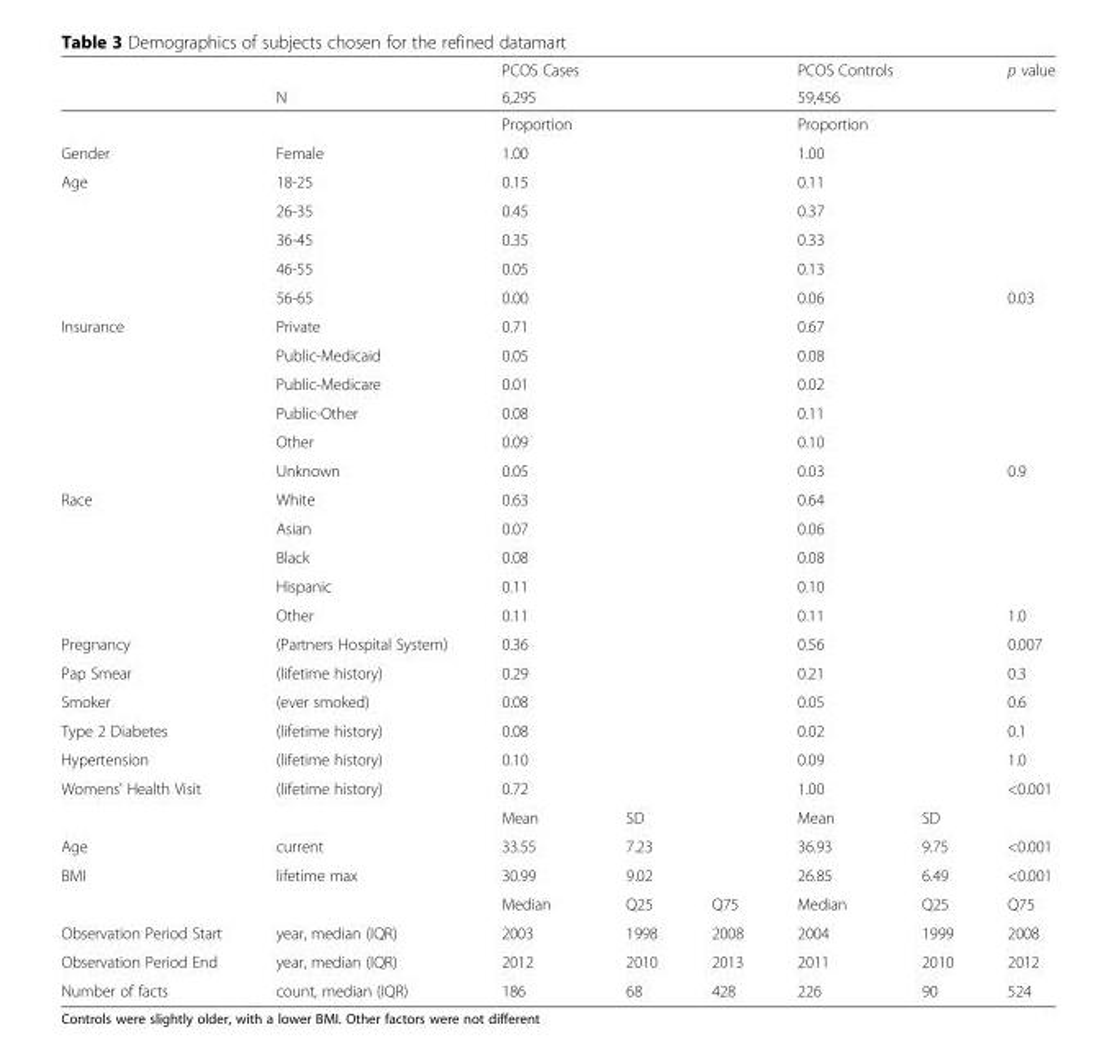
<table><thead><tr><td rowspan="3"></td><td rowspan="3">N</td><td rowspan="2" colspan="2">PCOS Cases 6,295</td><td rowspan="3"></td><td rowspan="2" colspan="2">PCOS Controls 59,456</td><td rowspan="3">p value</td></tr><tr></tr><tr><td>Proportion</td><td></td><td>Proportion</td><td></td></tr></thead><tbody><tr><td>Gender</td><td>Female</td><td>1.00</td><td></td><td></td><td>1.00</td><td></td><td></td></tr><tr><td rowspan="5">Age</td><td>18-25</td><td>0.15</td><td></td><td></td><td>0.11</td><td></td><td></td></tr><tr><td>26-35</td><td>0.45</td><td></td><td></td><td>0.37</td><td></td><td></td></tr><tr><td>36-45</td><td>0.35</td><td></td><td></td><td>0.33</td><td></td><td></td></tr><tr><td>46-55</td><td>0.05</td><td></td><td></td><td>0.13</td><td></td><td></td></tr><tr><td>56-65</td><td>0.00</td><td></td><td></td><td>0.06</td><td></td><td>0.03</td></tr><tr><td rowspan="6">Insurance</td><td>Private</td><td>0.71</td><td></td><td></td><td>0.67</td><td></td><td></td></tr><tr><td>Public-Medicaid</td><td>0.05</td><td></td><td></td><td>0.08</td><td></td><td></td></tr><tr><td>Public-Medicare</td><td>0.01</td><td></td><td></td><td>0.02</td><td></td><td></td></tr><tr><td>Public-Other</td><td>0.08</td><td></td><td></td><td>0.11</td><td></td><td></td></tr><tr><td>Other</td><td>0.09</td><td></td><td></td><td>0.10</td><td></td><td></td></tr><tr><td>Unknown</td><td>0.05</td><td></td><td></td><td>0.03</td><td></td><td>0.9</td></tr><tr><td rowspan="5">Race</td><td>White</td><td>0.63</td><td></td><td></td><td>0.64</td><td></td><td></td></tr><tr><td>Asian</td><td>0.07</td><td></td><td></td><td>0.06</td><td></td><td></td></tr><tr><td>Black</td><td>0.08</td><td></td><td></td><td>0.08</td><td></td><td></td></tr><tr><td>Hispanic</td><td>0.11</td><td></td><td></td><td>0.10</td><td></td><td></td></tr><tr><td>Other</td><td>0.11</td><td></td><td></td><td>0.11</td><td></td><td>1.0</td></tr><tr><td>Pregnancy</td><td>(Partners Hospital System)</td><td>0.36</td><td></td><td></td><td>0.56</td><td></td><td>0.007</td></tr><tr><td>Pap Smear</td><td>(lifetime history)</td><td>0.29</td><td></td><td></td><td>0.21</td><td></td><td>0.3</td></tr><tr><td>Smoker</td><td>(ever smoked)</td><td>0.08</td><td></td><td></td><td>0.05</td><td></td><td>0.6</td></tr><tr><td>Type 2 Diabetes</td><td>(lifetime history)</td><td>0.08</td><td></td><td></td><td>0.02</td><td></td><td>0.1</td></tr><tr><td>Hypertension</td><td>(lifetime history)</td><td>0.10</td><td></td><td></td><td>0.09</td><td></td><td>1.0</td></tr><tr><td rowspan="2">Womens&#x27; Health Visit</td><td>(lifetime history)</td><td>0.72</td><td></td><td></td><td>1.00</td><td></td><td>&lt;0.001</td></tr><tr><td></td><td>Mean</td><td>SD</td><td></td><td>Mean</td><td>SD</td><td></td></tr><tr><td>Age</td><td>current</td><td>33.55</td><td>7.23</td><td></td><td>36.93</td><td>9.75</td><td>&lt;0.001</td></tr><tr><td rowspan="2">BMI</td><td>lifetime max</td><td>30.99</td><td>9.02</td><td></td><td>26.85</td><td>6.49</td><td>&lt;0.001</td></tr><tr><td></td><td>Median</td><td>Q25</td><td>Q75</td><td>Median</td><td>Q25</td><td>Q75</td></tr><tr><td>Observation Period Start</td><td>year, median (IQR)</td><td>2003</td><td>1998</td><td>2008</td><td>2004</td><td>1999</td><td>2008</td></tr><tr><td>Observation Period End</td><td>year, median (IQR)</td><td>2012</td><td>2010</td><td>2013</td><td>2011</td><td>2010</td><td>2012</td></tr><tr><td>Number of facts</td><td>count, median (IQR)</td><td>186</td><td>68</td><td>428</td><td>226</td><td>90</td><td>524</td></tr></tbody></table>